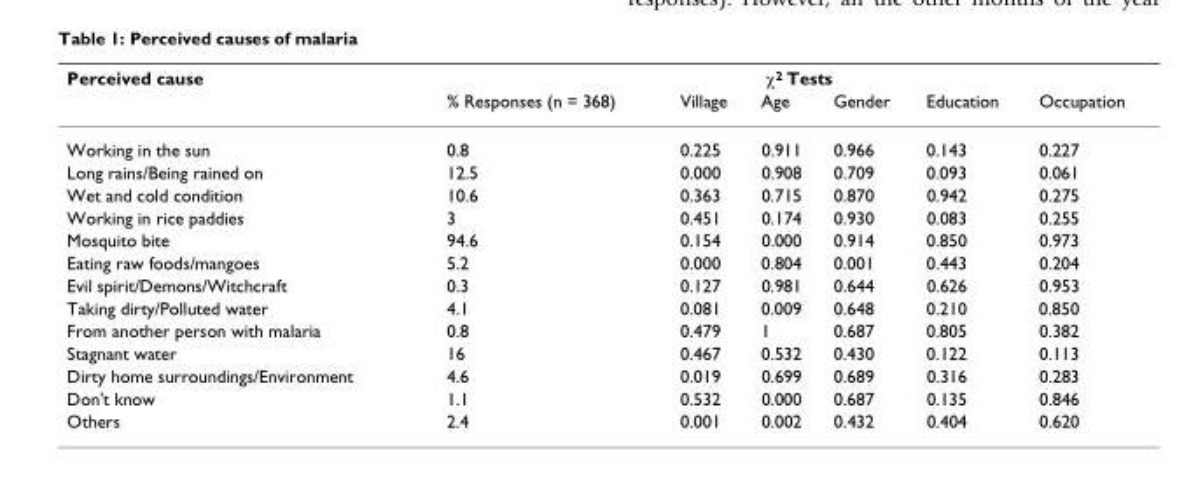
<table><thead><tr><td rowspan="2">Perceived cause</td><td colspan="6">χ<sup>2</sup> Tests</td></tr><tr><td>% Responses (n = 368)</td><td>Village</td><td>Age</td><td>Gender</td><td>Education</td><td>Occupation</td></tr></thead><tbody><tr><td>Working in the sun</td><td>0.8</td><td>0.225</td><td>0.911</td><td>0.966</td><td>0.143</td><td>0.227</td></tr><tr><td>Long rains/Being rained on</td><td>12.5</td><td>0.000</td><td>0.908</td><td>0.709</td><td>0.093</td><td>0.061</td></tr><tr><td>Wet and cold condition</td><td>10.6</td><td>0.363</td><td>0.715</td><td>0.870</td><td>0.942</td><td>0.275</td></tr><tr><td>Working in rice paddies</td><td>3</td><td>0.451</td><td>0.174</td><td>0.930</td><td>0.083</td><td>0.255</td></tr><tr><td>Mosquito bite</td><td>94.6</td><td>0.154</td><td>0.000</td><td>0.914</td><td>0.850</td><td>0.973</td></tr><tr><td>Eating raw foods/mangoes</td><td>5.2</td><td>0.000</td><td>0.804</td><td>0.001</td><td>0.443</td><td>0.204</td></tr><tr><td>Evil spirit/Demons/Witchcraft</td><td>0.3</td><td>0.127</td><td>0.981</td><td>0.644</td><td>0.626</td><td>0.953</td></tr><tr><td>Taking dirty/Polluted water</td><td>4.1</td><td>0.081</td><td>0.009</td><td>0.648</td><td>0.210</td><td>0.850</td></tr><tr><td>From another person with malaria</td><td>0.8</td><td>0.479</td><td>1</td><td>0.687</td><td>0.805</td><td>0.382</td></tr><tr><td>Stagnant water</td><td>16</td><td>0.467</td><td>0.532</td><td>0.430</td><td>0.122</td><td>0.113</td></tr><tr><td>Dirty home surroundings/Environment</td><td>4.6</td><td>0.019</td><td>0.699</td><td>0.689</td><td>0.316</td><td>0.283</td></tr><tr><td>Don&#x27;t know</td><td>1.1</td><td>0.532</td><td>0.000</td><td>0.687</td><td>0.135</td><td>0.846</td></tr><tr><td>Others</td><td>2.4</td><td>0.001</td><td>0.002</td><td>0.432</td><td>0.404</td><td>0.620</td></tr></tbody></table>